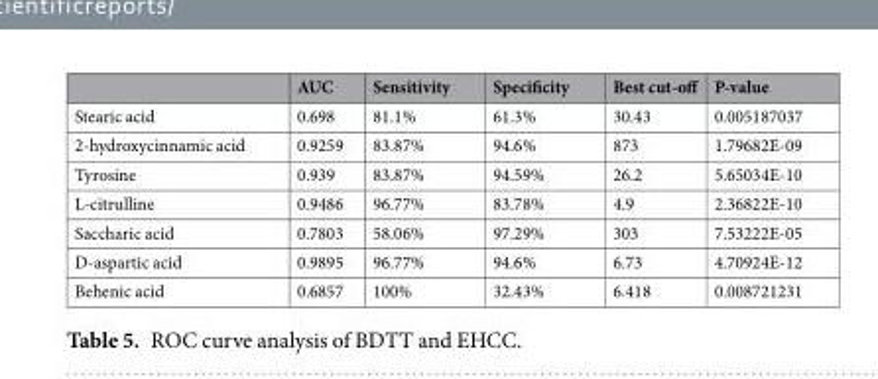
<table><thead><tr><td></td><td>AUC</td><td>Sensitivity</td><td>Specificity</td><td>Best cut-off</td><td>P-value</td></tr></thead><tbody><tr><td>Stearic acid</td><td>0.698</td><td>81.1%</td><td>61.3%</td><td>30.43</td><td>0.005187037</td></tr><tr><td>2-hydroxycinnamic acid</td><td>0.9259</td><td>83.87%</td><td>94.6%</td><td>873</td><td>1.79682E-09</td></tr><tr><td>Tyrosine</td><td>0.939</td><td>83.87%</td><td>94.59%</td><td>26.2</td><td>5.65034E-10</td></tr><tr><td>L-citrulline</td><td>0.9486</td><td>96.77%</td><td>83.78%</td><td>4.9</td><td>2.36822E-10</td></tr><tr><td>Saccharic acid</td><td>0.7803</td><td>58.06%</td><td>97.29%</td><td>303</td><td>7.53222E-05</td></tr><tr><td>D-aspartic acid</td><td>0.9895</td><td>96.77%</td><td>94.6%</td><td>6.73</td><td>4.70924E-12</td></tr><tr><td>Behenic acid</td><td>0.6857</td><td>100%</td><td>32.43%</td><td>6.418</td><td>0.008721231</td></tr></tbody></table>